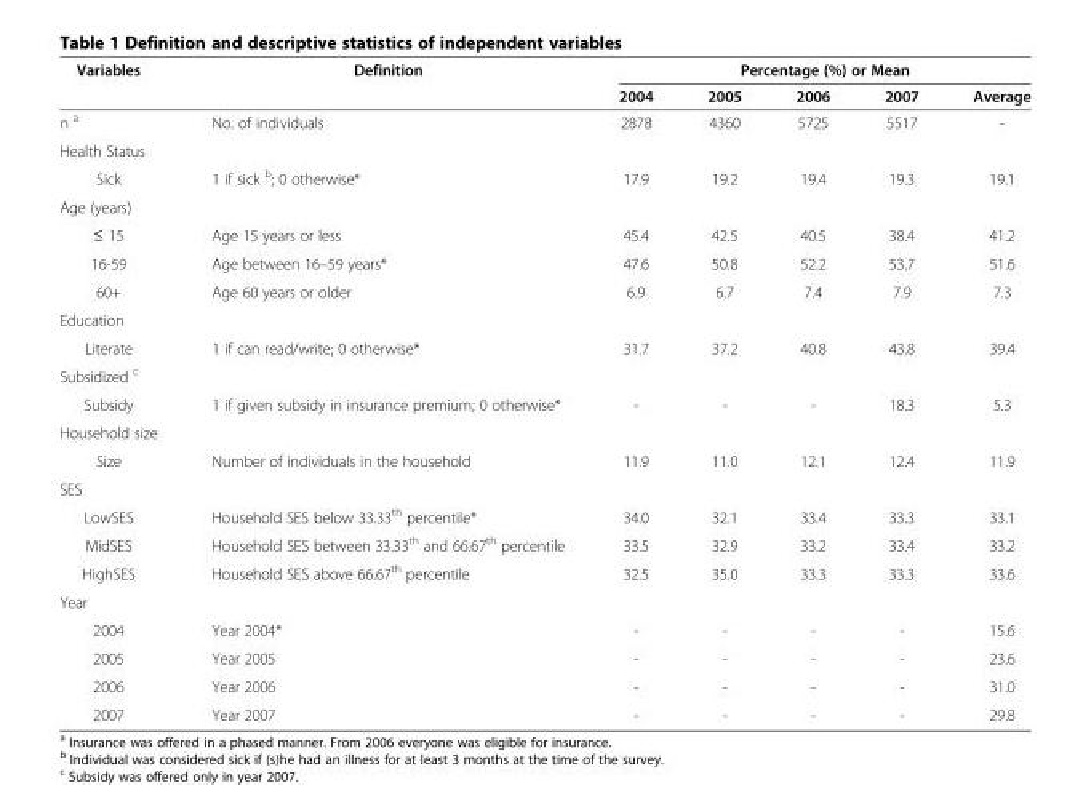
<table><thead><tr><td rowspan="2">Variables</td><td rowspan="2">Definition</td><td colspan="5">Percentage (%) or Mean</td></tr><tr><td>2004</td><td>2005</td><td>2006</td><td>2007</td><td>Average</td></tr></thead><tbody><tr><td>n <sup>a</sup></td><td>No. of individuals</td><td>2878</td><td>4360</td><td>5725</td><td>5517</td><td>-</td></tr><tr><td colspan="7">Health Status</td></tr><tr><td>Sick</td><td>1 if sick <sup>b</sup>; 0 otherwise*</td><td>17.9</td><td>19.2</td><td>19.4</td><td>19.3</td><td>19.1</td></tr><tr><td colspan="7">Age (years)</td></tr><tr><td>≤ 15</td><td>Age 15 years or less</td><td>45.4</td><td>42.5</td><td>40.5</td><td>38.4</td><td>41.2</td></tr><tr><td>16-59</td><td>Age between 16–59 years*</td><td>47.6</td><td>50.8</td><td>52.2</td><td>53.7</td><td>51.6</td></tr><tr><td>60+</td><td>Age 60 years or older</td><td>6.9</td><td>6.7</td><td>7.4</td><td>7.9</td><td>7.3</td></tr><tr><td colspan="7">Education</td></tr><tr><td>Literate</td><td>1 if can read/write; 0 otherwise*</td><td>31.7</td><td>37.2</td><td>40.8</td><td>43.8</td><td>39.4</td></tr><tr><td colspan="7">Subsidized <sup>c</sup></td></tr><tr><td>Subsidy</td><td>1 if given subsidy in insurance premium; 0 otherwise*</td><td>-</td><td>-</td><td>-</td><td>18.3</td><td>5.3</td></tr><tr><td colspan="7">Household size</td></tr><tr><td>Size</td><td>Number of individuals in the household</td><td>11.9</td><td>11.0</td><td>12.1</td><td>12.4</td><td>11.9</td></tr><tr><td colspan="7">SES</td></tr><tr><td>LowSES</td><td>Household SES below 33.33<sup>th</sup> percentile*</td><td>34.0</td><td>32.1</td><td>33.4</td><td>33.3</td><td>33.1</td></tr><tr><td>MidSES</td><td>Household SES between 33.33<sup>th</sup> and 66.67<sup>th</sup> percentile</td><td>33.5</td><td>32.9</td><td>33.2</td><td>33.4</td><td>33.2</td></tr><tr><td>HighSES</td><td>Household SES above 66.67<sup>th</sup> percentile</td><td>32.5</td><td>35.0</td><td>33.3</td><td>33.3</td><td>33.6</td></tr><tr><td colspan="7">Year</td></tr><tr><td>2004</td><td>Year 2004*</td><td>-</td><td>-</td><td>-</td><td>-</td><td>15.6</td></tr><tr><td>2005</td><td>Year 2005</td><td>-</td><td>-</td><td>-</td><td>-</td><td>23.6</td></tr><tr><td>2006</td><td>Year 2006</td><td>-</td><td>-</td><td>-</td><td>-</td><td>31.0</td></tr><tr><td>2007</td><td>Year 2007</td><td>-</td><td>-</td><td>-</td><td>-</td><td>29.8</td></tr></tbody></table>